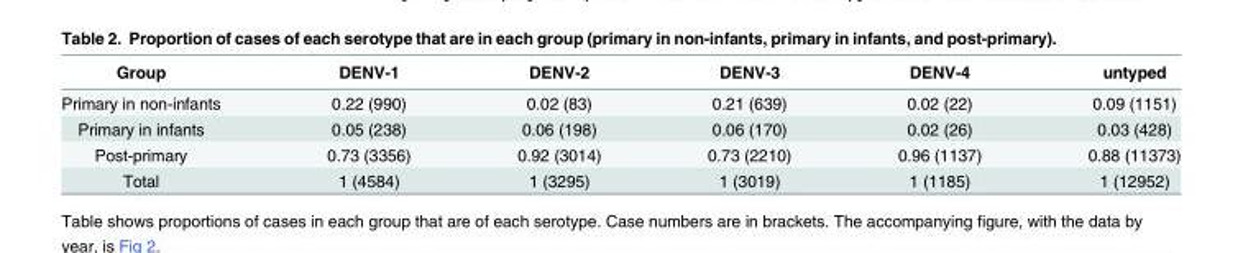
<table><thead><tr><td>Group</td><td>DENV-1</td><td>DENV-2</td><td>DENV-3</td><td>DENV-4</td><td>untyped</td></tr></thead><tbody><tr><td>Primary in non-infants</td><td>0.22 (990)</td><td>0.02 (83)</td><td>0.21 (639)</td><td>0.02 (22)</td><td>0.09 (1151)</td></tr><tr><td>Primary in infants</td><td>0.05 (238)</td><td>0.06 (198)</td><td>0.06 (170)</td><td>0.02 (26)</td><td>0.03 (428)</td></tr><tr><td>Post-primary</td><td>0.73 (3356)</td><td>0.92 (3014)</td><td>0.73 (2210)</td><td>0.96 (1137)</td><td>0.88 (11373)</td></tr><tr><td>Total</td><td>1 (4584)</td><td>1 (3295)</td><td>1 (3019)</td><td>1 (1185)</td><td>1 (12952)</td></tr></tbody></table>